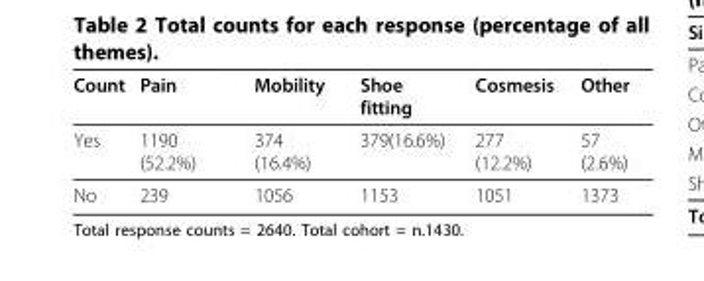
<table><thead><tr><td>Count</td><td>Pain</td><td>Mobility</td><td>Shoe fitting</td><td>Cosmesis</td><td>Other</td></tr></thead><tbody><tr><td>Yes</td><td>1190 (52.2%)</td><td>374 (16.4%)</td><td>379(16.6%)</td><td>277 (12.2%)</td><td>57 (2.6%)</td></tr><tr><td>No</td><td>239</td><td>1056</td><td>1153</td><td>1051</td><td>1373</td></tr></tbody></table>